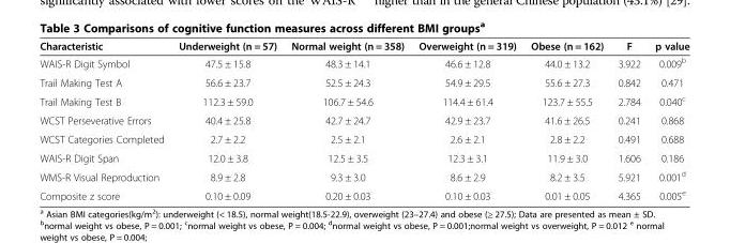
<table><thead><tr><td>Characteristic</td><td>Underweight (n = 57)</td><td>Normal weight (n = 358)</td><td>Overweight (n = 319)</td><td>Obese (n = 162)</td><td>F</td><td>p value</td></tr></thead><tbody><tr><td>WAIS-R Digit Symbol</td><td>47.5 ± 15.8</td><td>48.3 ± 14.1</td><td>46.6 ± 12.8</td><td>44.0 ± 13.2</td><td>3.922</td><td>0.009<sup>b</sup></td></tr><tr><td>Trail Making Test A</td><td>56.6 ± 23.7</td><td>52.5 ± 24.3</td><td>54.9 ± 29.5</td><td>55.6 ± 27.3</td><td>0.842</td><td>0.471</td></tr><tr><td>Trail Making Test B</td><td>112.3 ± 59.0</td><td>106.7 ± 54.6</td><td>114.4 ± 61.4</td><td>123.7 ± 55.5</td><td>2.784</td><td>0.040<sup>c</sup></td></tr><tr><td>WCST Perseverative Errors</td><td>40.4 ± 25.8</td><td>42.7 ± 24.7</td><td>42.9 ± 23.7</td><td>41.6 ± 26.5</td><td>0.241</td><td>0.868</td></tr><tr><td>WCST Categories Completed</td><td>2.7 ± 2.2</td><td>2.5 ± 2.1</td><td>2.6 ± 2.1</td><td>2.8 ± 2.2</td><td>0.491</td><td>0.688</td></tr><tr><td>WAIS-R Digit Span</td><td>12.0 ± 3.8</td><td>12.5 ± 3.5</td><td>12.3 ± 3.1</td><td>11.9 ± 3.0</td><td>1.606</td><td>0.186</td></tr><tr><td>WMS-R Visual Reproduction</td><td>8.9 ± 2.8</td><td>9.3 ± 3.0</td><td>8.6 ± 2.9</td><td>8.2 ± 3.5</td><td>5.921</td><td>0.001<sup>d</sup></td></tr><tr><td>Composite z score</td><td>0.10 ± 0.09</td><td>0.20 ± 0.03</td><td>0.10 ± 0.03</td><td>0.01 ± 0.05</td><td>4.365</td><td>0.005<sup>e</sup></td></tr></tbody></table>